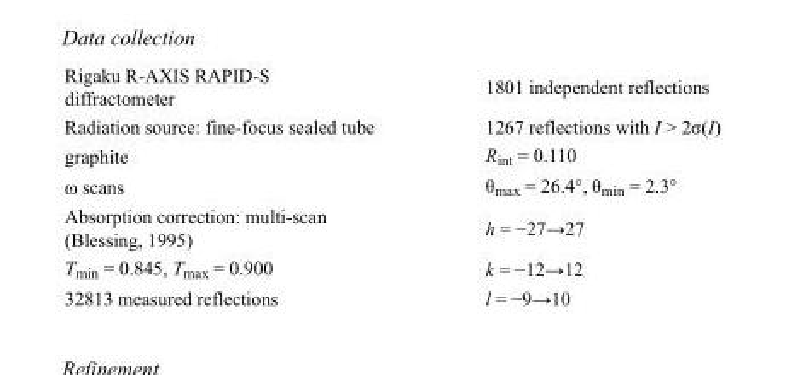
<table><tbody><tr><td>Rigaku R-AXIS RAPID-S diffractometer</td><td>1801 independent reflections</td></tr><tr><td>Radiation source: fine-focus sealed tube</td><td>1267 reflections with I &gt; 2σ(I)</td></tr><tr><td>graphite</td><td>R<sub>int</sub> = 0.110</td></tr><tr><td>ω scans</td><td>θ<sub>max</sub> = 26.4°, θ<sub>min</sub> = 2.3°</td></tr><tr><td>Absorption correction: multi-scan (Blessing, 1995)</td><td>h = −27→27</td></tr><tr><td>T<sub>min</sub> = 0.845, T<sub>max</sub> = 0.900</td><td>k = −12→12</td></tr><tr><td>32813 measured reflections</td><td>l = −9→10</td></tr></tbody></table>